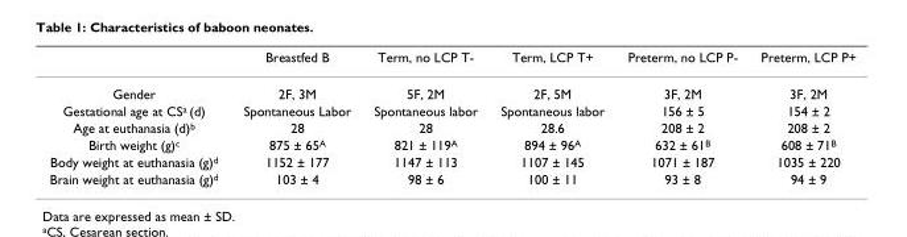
<table><thead><tr><td></td><td>Breastfed B</td><td>Term, no LCP T-</td><td>Term, LCP T+</td><td>Preterm, no LCP P-</td><td>Preterm, LCP P+</td></tr></thead><tbody><tr><td>Gender</td><td>2F, 3M</td><td>5F, 2M</td><td>2F, 5M</td><td>3F, 2M</td><td>3F, 2M</td></tr><tr><td>Gestational age at CS<sup>a</sup> (d)</td><td>Spontaneous Labor</td><td>Spontaneous labor</td><td>Spontaneous labor</td><td>156 ± 5</td><td>154 ± 2</td></tr><tr><td>Age at euthanasia (d)<sup>b</sup></td><td>28</td><td>28</td><td>28.6</td><td>208 ± 2</td><td>208 ± 2</td></tr><tr><td>Birth weight (g)<sup>c</sup></td><td>875 ± 65<sup>A</sup></td><td>821 ± 119<sup>A</sup></td><td>894 ± 96<sup>A</sup></td><td>632 ± 61<sup>B</sup></td><td>608 ± 71<sup>B</sup></td></tr><tr><td>Body weight at euthanasia (g)<sup>d</sup></td><td>1152 ± 177</td><td>1147 ± 113</td><td>1107 ± 145</td><td>1071 ± 187</td><td>1035 ± 220</td></tr><tr><td>Brain weight at euthanasia (g)<sup>d</sup></td><td>103 ± 4</td><td>98 ± 6</td><td>100 ± 11</td><td>93 ± 8</td><td>94 ± 9</td></tr></tbody></table>